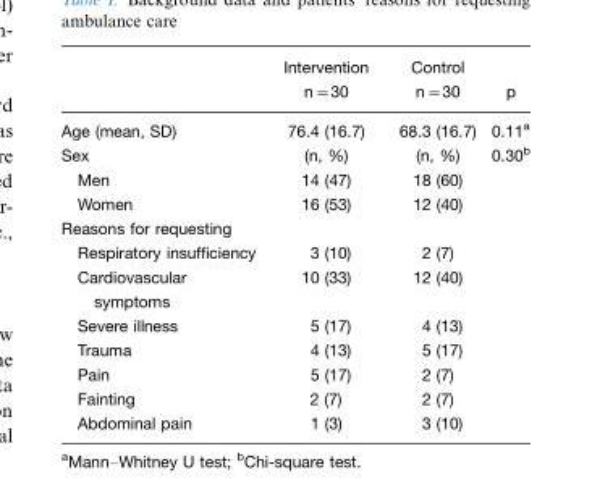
<table><thead><tr><td></td><td>Intervention n=30</td><td>Control n=30</td><td>p</td></tr></thead><tbody><tr><td>Age (mean, SD)</td><td>76.4 (16.7)</td><td>68.3 (16.7)</td><td>0.11<sup>a</sup></td></tr><tr><td>Sex</td><td>(n, %)</td><td>(n, %)</td><td>0.30<sup>b</sup></td></tr><tr><td>Men</td><td>14 (47)</td><td>18 (60)</td><td></td></tr><tr><td>Women</td><td>16 (53)</td><td>12 (40)</td><td></td></tr><tr><td colspan="4">Reasons for requesting</td></tr><tr><td>Respiratory insufficiency</td><td>3 (10)</td><td>2 (7)</td><td></td></tr><tr><td>Cardiovascular symptoms</td><td>10 (33)</td><td>12 (40)</td><td></td></tr><tr><td>Severe illness</td><td>5 (17)</td><td>4 (13)</td><td></td></tr><tr><td>Trauma</td><td>4 (13)</td><td>5 (17)</td><td></td></tr><tr><td>Pain</td><td>5 (17)</td><td>2 (7)</td><td></td></tr><tr><td>Fainting</td><td>2 (7)</td><td>2 (7)</td><td></td></tr><tr><td>Abdominal pain</td><td>1 (3)</td><td>3 (10)</td><td></td></tr></tbody></table>